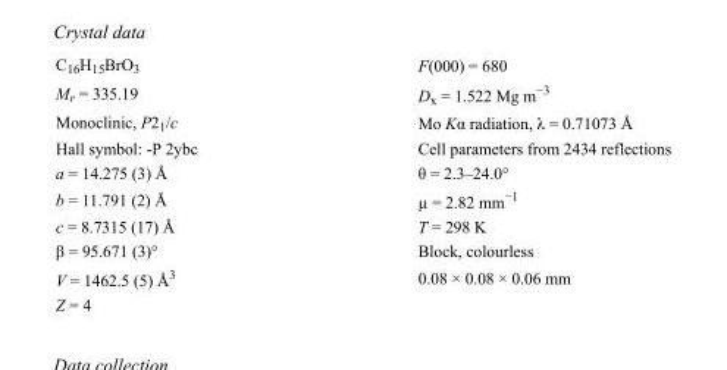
<table><tbody><tr><td>C<sub>16</sub>H<sub>15</sub>BrO<sub>3</sub></td><td>F(000) = 680</td></tr><tr><td>M<sub>r</sub> = 335.19</td><td>D<sub>x</sub> = 1.522 Mg m<sup>−3</sup></td></tr><tr><td>Monoclinic, P2<sub>1</sub>/c</td><td>Mo Kα radiation, λ = 0.71073 Å</td></tr><tr><td>Hall symbol: -P 2ybc</td><td>Cell parameters from 2434 reflections</td></tr><tr><td>a = 14.275 (3) Å</td><td>θ = 2.3–24.0°</td></tr><tr><td>b = 11.791 (2) Å</td><td>µ = 2.82 mm<sup>−1</sup></td></tr><tr><td>c = 8.7315 (17) Å</td><td>T = 298 K</td></tr><tr><td>β = 95.671 (3)°</td><td>Block, colourless</td></tr><tr><td>V = 1462.5 (5) Å<sup>3</sup></td><td>0.08 × 0.08 × 0.06 mm</td></tr><tr><td>Z = 4</td><td></td></tr></tbody></table>